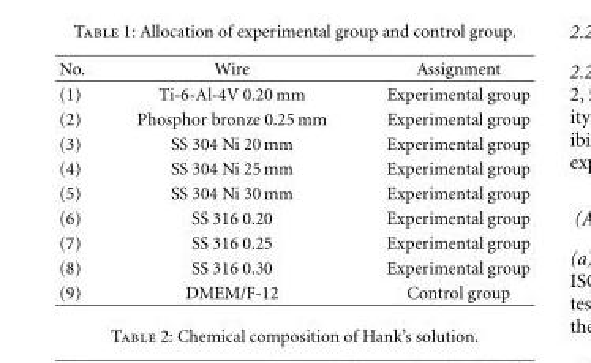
<table><thead><tr><td>No.</td><td>Wire</td><td>Assignment</td></tr></thead><tbody><tr><td>(1)</td><td>Ti-6-Al-4V 0.20 mm</td><td>Experimental group</td></tr><tr><td>(2)</td><td>Phosphor bronze 0.25 mm</td><td>Experimental group</td></tr><tr><td>(3)</td><td>SS 304 Ni 20 mm</td><td>Experimental group</td></tr><tr><td>(4)</td><td>SS 304 Ni 25 mm</td><td>Experimental group</td></tr><tr><td>(5)</td><td>SS 304 Ni 30 mm</td><td>Experimental group</td></tr><tr><td>(6)</td><td>SS 316 0.20</td><td>Experimental group</td></tr><tr><td>(7)</td><td>SS 316 0.25</td><td>Experimental group</td></tr><tr><td>(8)</td><td>SS 316 0.30</td><td>Experimental group</td></tr><tr><td>(9)</td><td>DMEM/F-12</td><td>Control group</td></tr></tbody></table>